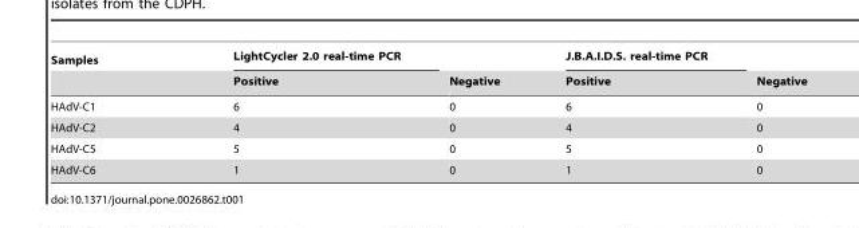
<table><thead><tr><td rowspan="2">Samples</td><td rowspan="2">LightCycler 2.0 real-time PCR Positive</td><td rowspan="2">Negative</td><td rowspan="2">J.B.A.I.D.S. real-time PCR Positive</td><td rowspan="2">Negative</td></tr><tr></tr></thead><tbody><tr><td>HAdV-C1</td><td>6</td><td>0</td><td>6</td><td>0</td></tr><tr><td>HAdV-C2</td><td>4</td><td>0</td><td>4</td><td>0</td></tr><tr><td>HAdV-C5</td><td>5</td><td>0</td><td>5</td><td>0</td></tr><tr><td>HAdV-C6</td><td>1</td><td>0</td><td>1</td><td>0</td></tr></tbody></table>